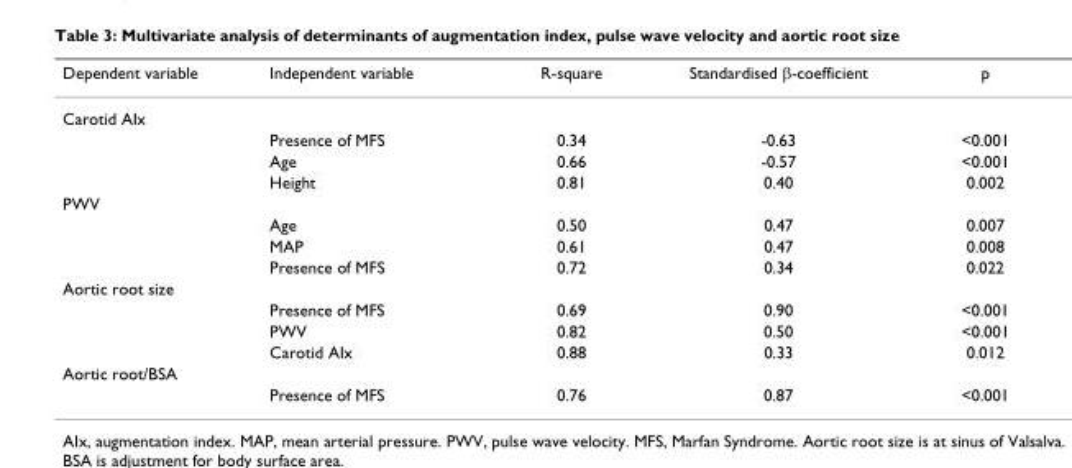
<table><thead><tr><td>Dependent variable</td><td>Independent variable</td><td>R-square</td><td>Standardised β-coefficient</td><td>p</td></tr></thead><tbody><tr><td colspan="5">Carotid AIx</td></tr><tr><td></td><td>Presence of MFS</td><td>0.34</td><td>-0.63</td><td>&lt;0.001</td></tr><tr><td></td><td>Age</td><td>0.66</td><td>-0.57</td><td>&lt;0.001</td></tr><tr><td></td><td>Height</td><td>0.81</td><td>0.40</td><td>0.002</td></tr><tr><td colspan="5">PWV</td></tr><tr><td></td><td>Age</td><td>0.50</td><td>0.47</td><td>0.007</td></tr><tr><td></td><td>MAP</td><td>0.61</td><td>0.47</td><td>0.008</td></tr><tr><td></td><td>Presence of MFS</td><td>0.72</td><td>0.34</td><td>0.022</td></tr><tr><td colspan="5">Aortic root size</td></tr><tr><td></td><td>Presence of MFS</td><td>0.69</td><td>0.90</td><td>&lt;0.001</td></tr><tr><td></td><td>PWV</td><td>0.82</td><td>0.50</td><td>&lt;0.001</td></tr><tr><td></td><td>Carotid AIx</td><td>0.88</td><td>0.33</td><td>0.012</td></tr><tr><td colspan="5">Aortic root/BSA</td></tr><tr><td></td><td>Presence of MFS</td><td>0.76</td><td>0.87</td><td>&lt;0.001</td></tr></tbody></table>